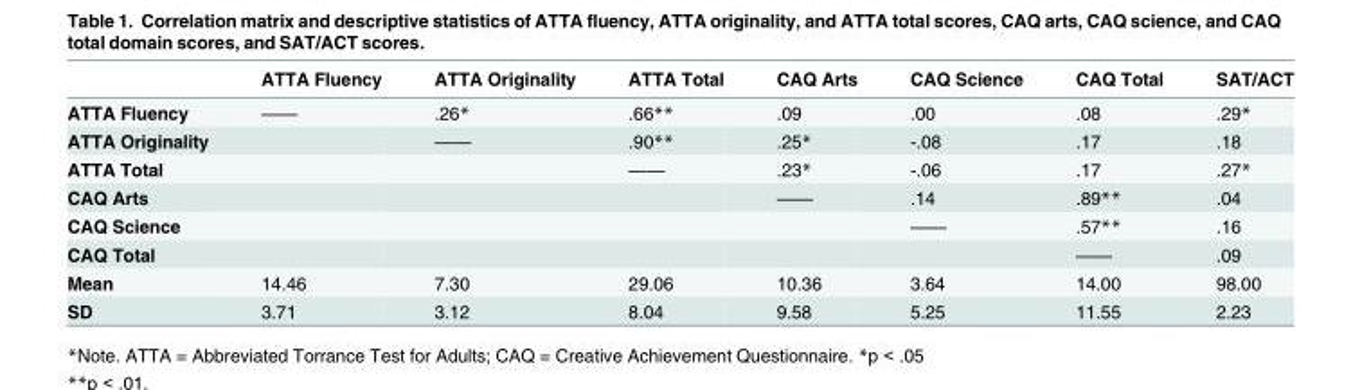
<table><thead><tr><td></td><td>ATTA Fluency</td><td>ATTA Originality</td><td>ATTA Total</td><td>CAQ Arts</td><td>CAQ Science</td><td>CAQ Total</td><td>SAT/ACT</td></tr></thead><tbody><tr><td>ATTA Fluency</td><td>——</td><td>.26*</td><td>.66**</td><td>.09</td><td>.00</td><td>.08</td><td>.29*</td></tr><tr><td>ATTA Originality</td><td></td><td>——</td><td>.90**</td><td>.25*</td><td>-.08</td><td>.17</td><td>.18</td></tr><tr><td>ATTA Total</td><td></td><td></td><td>——</td><td>.23*</td><td>-.06</td><td>.17</td><td>.27*</td></tr><tr><td>CAQ Arts</td><td></td><td></td><td></td><td>——</td><td>.14</td><td>.89**</td><td>.04</td></tr><tr><td>CAQ Science</td><td></td><td></td><td></td><td></td><td>——</td><td>.57**</td><td>.16</td></tr><tr><td>CAQ Total</td><td></td><td></td><td></td><td></td><td></td><td>——</td><td>.09</td></tr><tr><td>Mean</td><td>14.46</td><td>7.30</td><td>29.06</td><td>10.36</td><td>3.64</td><td>14.00</td><td>98.00</td></tr><tr><td>SD</td><td>3.71</td><td>3.12</td><td>8.04</td><td>9.58</td><td>5.25</td><td>11.55</td><td>2.23</td></tr></tbody></table>